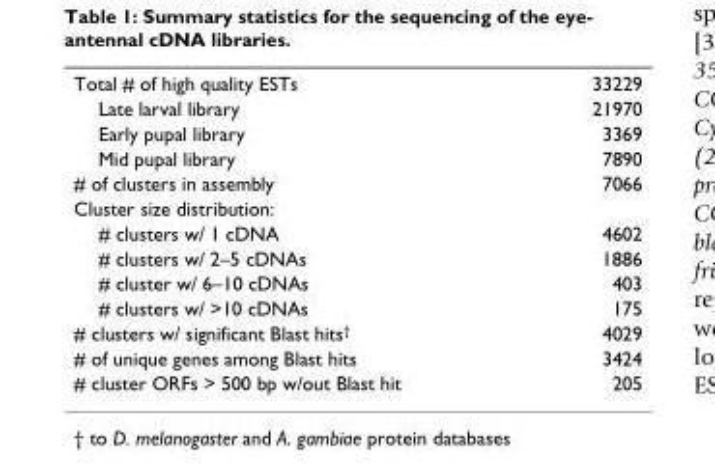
<table><tbody><tr><td>Total # of high quality ESTs</td><td>33229</td></tr><tr><td>Late larval library</td><td>21970</td></tr><tr><td>Early pupal library</td><td>3369</td></tr><tr><td>Mid pupal library</td><td>7890</td></tr><tr><td># of clusters in assembly</td><td>7066</td></tr><tr><td colspan="2">Cluster size distribution:</td></tr><tr><td># clusters w/ 1 cDNA</td><td>4602</td></tr><tr><td># clusters w/ 2–5 cDNAs</td><td>1886</td></tr><tr><td># cluster w/ 6–10 cDNAs</td><td>403</td></tr><tr><td># clusters w/ &gt;10 cDNAs</td><td>175</td></tr><tr><td># clusters w/ significant Blast hits<sup>†</sup></td><td>4029</td></tr><tr><td># of unique genes among Blast hits</td><td>3424</td></tr><tr><td># cluster ORFs &gt; 500 bp w/out Blast hit</td><td>205</td></tr></tbody></table>